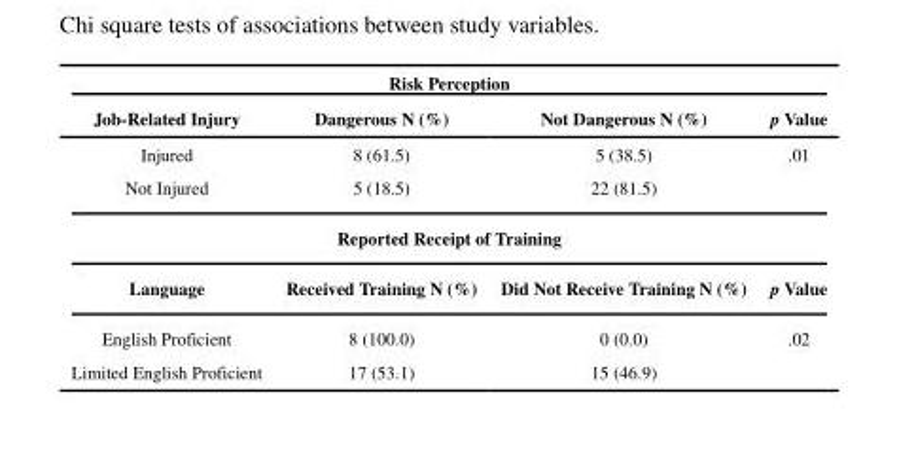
<table><thead><tr><td colspan="4">Risk Perception</td></tr><tr><td>Job-Related Injury</td><td>Dangerous N (%)</td><td>Not Dangerous N (%)</td><td>p Value</td></tr></thead><tbody><tr><td>Injured</td><td>8 (61.5)</td><td>5 (38.5)</td><td>.01</td></tr><tr><td>Not Injured</td><td>5 (18.5)</td><td>22 (81.5)</td><td></td></tr><tr><td colspan="4">Reported Receipt of Training</td></tr><tr><td>Language</td><td>Received Training N (%)</td><td>Did Not Receive Training N (%)</td><td>p Value</td></tr><tr><td>English Proficient</td><td>8 (100.0)</td><td>0 (0.0)</td><td>.02</td></tr><tr><td>Limited English Proficient</td><td>17 (53.1)</td><td>15 (46.9)</td><td></td></tr></tbody></table>